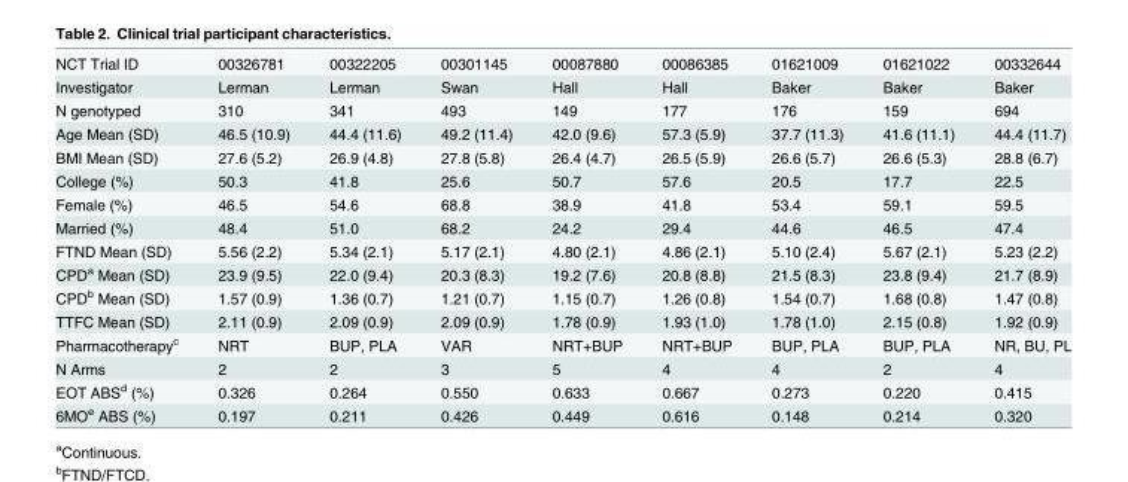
<table><tbody><tr><td>NCT Trial ID</td><td>00326781</td><td>00322205</td><td>00301145</td><td>00087880</td><td>00086385</td><td>01621009</td><td>01621022</td><td>00332644</td></tr><tr><td>Investigator</td><td>Lerman</td><td>Lerman</td><td>Swan</td><td>Hall</td><td>Hall</td><td>Baker</td><td>Baker</td><td>Baker</td></tr><tr><td>N genotyped</td><td>310</td><td>341</td><td>493</td><td>149</td><td>177</td><td>176</td><td>159</td><td>694</td></tr><tr><td>Age Mean (SD)</td><td>46.5 (10.9)</td><td>44.4 (11.6)</td><td>49.2 (11.4)</td><td>42.0 (9.6)</td><td>57.3 (5.9)</td><td>37.7 (11.3)</td><td>41.6 (11.1)</td><td>44.4 (11.7)</td></tr><tr><td>BMI Mean (SD)</td><td>27.6 (5.2)</td><td>26.9 (4.8)</td><td>27.8 (5.8)</td><td>26.4 (4.7)</td><td>26.5 (5.9)</td><td>26.6 (5.7)</td><td>26.6 (5.3)</td><td>28.8 (6.7)</td></tr><tr><td>College (%)</td><td>50.3</td><td>41.8</td><td>25.6</td><td>50.7</td><td>57.6</td><td>20.5</td><td>17.7</td><td>22.5</td></tr><tr><td>Female (%)</td><td>46.5</td><td>54.6</td><td>68.8</td><td>38.9</td><td>41.8</td><td>53.4</td><td>59.1</td><td>59.5</td></tr><tr><td>Married (%)</td><td>48.4</td><td>51.0</td><td>68.2</td><td>24.2</td><td>29.4</td><td>44.6</td><td>46.5</td><td>47.4</td></tr><tr><td>FTND Mean (SD)</td><td>5.56 (2.2)</td><td>5.34 (2.1)</td><td>5.17 (2.1)</td><td>4.80 (2.1)</td><td>4.86 (2.1)</td><td>5.10 (2.4)</td><td>5.67 (2.1)</td><td>5.23 (2.2)</td></tr><tr><td>CPD<sup>a</sup> Mean (SD)</td><td>23.9 (9.5)</td><td>22.0 (9.4)</td><td>20.3 (8.3)</td><td>19.2 (7.6)</td><td>20.8 (8.8)</td><td>21.5 (8.3)</td><td>23.8 (9.4)</td><td>21.7 (8.9)</td></tr><tr><td>CPD<sup>b</sup> Mean (SD)</td><td>1.57 (0.9)</td><td>1.36 (0.7)</td><td>1.21 (0.7)</td><td>1.15 (0.7)</td><td>1.26 (0.8)</td><td>1.54 (0.7)</td><td>1.68 (0.8)</td><td>1.47 (0.8)</td></tr><tr><td>TTFC Mean (SD)</td><td>2.11 (0.9)</td><td>2.09 (0.9)</td><td>2.09 (0.9)</td><td>1.78 (0.9)</td><td>1.93 (1.0)</td><td>1.78 (1.0)</td><td>2.15 (0.8)</td><td>1.92 (0.9)</td></tr><tr><td>Pharmacotherapy<sup>c</sup></td><td>NRT</td><td>BUP, PLA</td><td>VAR</td><td>NRT+BUP</td><td>NRT+BUP</td><td>BUP, PLA</td><td>BUP, PLA</td><td>NR, BU, PL</td></tr><tr><td>N Arms</td><td>2</td><td>2</td><td>3</td><td>5</td><td>4</td><td>4</td><td>2</td><td>4</td></tr><tr><td>EOT ABS<sup>d</sup> (%)</td><td>0.326</td><td>0.264</td><td>0.550</td><td>0.633</td><td>0.667</td><td>0.273</td><td>0.220</td><td>0.415</td></tr><tr><td>6MO<sup>e</sup> ABS (%)</td><td>0.197</td><td>0.211</td><td>0.426</td><td>0.449</td><td>0.616</td><td>0.148</td><td>0.214</td><td>0.320</td></tr></tbody></table>